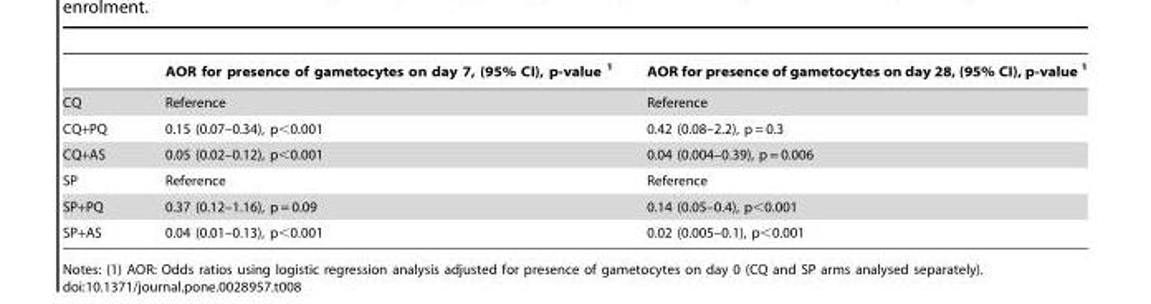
<table><thead><tr><td></td><td>AOR for presence of gametocytes on day 7, (95% CI), p-value <sup>1</sup></td><td>AOR for presence of gametocytes on day 28, (95% CI), p-value <sup>1</sup></td></tr></thead><tbody><tr><td>CQ</td><td>Reference</td><td>Reference</td></tr><tr><td>CQ+PQ</td><td>0.15 (0.07–0.34), p&lt;0.001</td><td>0.42 (0.08–2.2), p = 0.3</td></tr><tr><td>CQ+AS</td><td>0.05 (0.02–0.12), p&lt;0.001</td><td>0.04 (0.004–0.39), p = 0.006</td></tr><tr><td>SP</td><td>Reference</td><td>Reference</td></tr><tr><td>SP+PQ</td><td>0.37 (0.12–1.16), p = 0.09</td><td>0.14 (0.05–0.4), p&lt;0.001</td></tr><tr><td>SP+AS</td><td>0.04 (0.01–0.13), p&lt;0.001</td><td>0.02 (0.005–0.1), p&lt;0.001</td></tr></tbody></table>